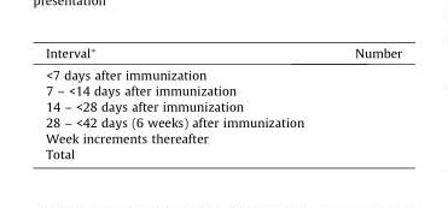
<table><thead><tr><td>Interval⁄</td><td>Number</td></tr></thead><tbody><tr><td colspan="2">&lt;7 days after immunization</td></tr><tr><td colspan="2">7 – &lt;14 days after immunization</td></tr><tr><td colspan="2">14 – &lt;28 days after immunization</td></tr><tr><td colspan="2">28 – &lt;42 days (6 weeks) after immunization</td></tr><tr><td colspan="2">Week increments thereafter</td></tr><tr><td>Total</td><td></td></tr></tbody></table>